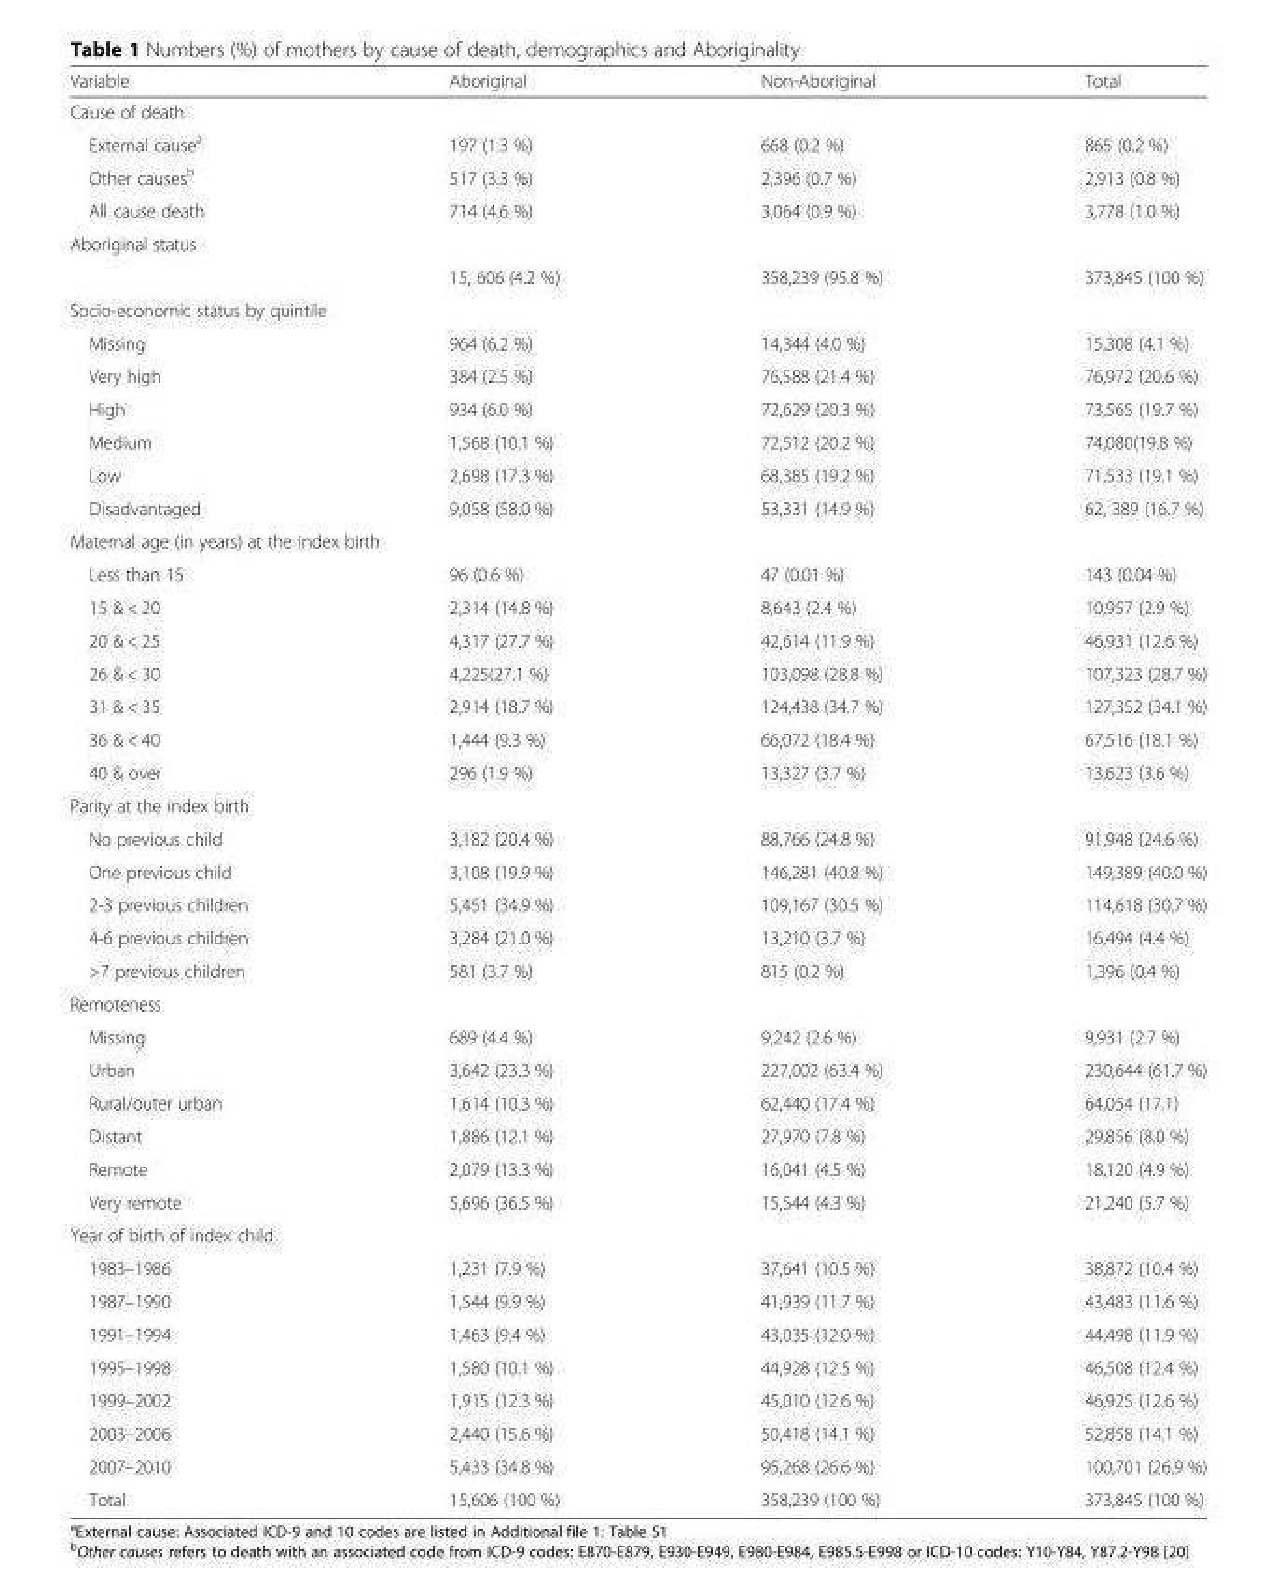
<table><thead><tr><td>Variable</td><td>Aboriginal</td><td>Non-Aboriginal</td><td>Total</td></tr></thead><tbody><tr><td colspan="4">Cause of death</td></tr><tr><td>External cause<sup>a</sup></td><td>197 (1.3 %)</td><td>668 (0.2 %)</td><td>865 (0.2 %)</td></tr><tr><td>Other causes<sup>b</sup></td><td>517 (3.3 %)</td><td>2,396 (0.7 %)</td><td>2,913 (0.8 %)</td></tr><tr><td>All cause death</td><td>714 (4.6 %)</td><td>3,064 (0.9 %)</td><td>3,778 (1.0 %)</td></tr><tr><td colspan="4">Aboriginal status</td></tr><tr><td></td><td>15, 606 (4.2 %)</td><td>358,239 (95.8 %)</td><td>373,845 (100 %)</td></tr><tr><td colspan="4">Socio-economic status by quintile</td></tr><tr><td>Missing</td><td>964 (6.2 %)</td><td>14,344 (4.0 %)</td><td>15,308 (4.1 %)</td></tr><tr><td>Very high</td><td>384 (2.5 %)</td><td>76,588 (21.4 %)</td><td>76,972 (20.6 %)</td></tr><tr><td>High</td><td>934 (6.0 %)</td><td>72,629 (20.3 %)</td><td>73,565 (19.7 %)</td></tr><tr><td>Medium</td><td>1,568 (10.1 %)</td><td>72,512 (20.2 %)</td><td>74,080(19.8 %)</td></tr><tr><td>Low</td><td>2,698 (17.3 %)</td><td>68,385 (19.2 %)</td><td>71,533 (19.1 %)</td></tr><tr><td>Disadvantaged</td><td>9,058 (58.0 %)</td><td>53,331 (14.9 %)</td><td>62, 389 (16.7 %)</td></tr><tr><td colspan="4">Maternal age (in years) at the index birth</td></tr><tr><td>Less than 15</td><td>96 (0.6 %)</td><td>47 (0.01 %)</td><td>143 (0.04 %)</td></tr><tr><td>15 &amp; &lt; 20</td><td>2,314 (14.8 %)</td><td>8,643 (2.4 %)</td><td>10,957 (2.9 %)</td></tr><tr><td>20 &amp; &lt; 25</td><td>4,317 (27.7 %)</td><td>42,614 (11.9 %)</td><td>46,931 (12.6 %)</td></tr><tr><td>26 &amp; &lt; 30</td><td>4,225(27.1 %)</td><td>103,098 (28.8 %)</td><td>107,323 (28.7 %)</td></tr><tr><td>31 &amp; &lt; 35</td><td>2,914 (18.7 %)</td><td>124,438 (34.7 %)</td><td>127,352 (34.1 %)</td></tr><tr><td>36 &amp; &lt; 40</td><td>1,444 (9.3 %)</td><td>66,072 (18.4 %)</td><td>67,516 (18.1 %)</td></tr><tr><td>40 &amp; over</td><td>296 (1.9 %)</td><td>13,327 (3.7 %)</td><td>13,623 (3.6 %)</td></tr><tr><td colspan="4">Parity at the index birth</td></tr><tr><td>No previous child</td><td>3,182 (20.4 %)</td><td>88,766 (24.8 %)</td><td>91,948 (24.6 %)</td></tr><tr><td>One previous child</td><td>3,108 (19.9 %)</td><td>146,281 (40.8 %)</td><td>149,389 (40.0 %)</td></tr><tr><td>2-3 previous children</td><td>5,451 (34.9 %)</td><td>109,167 (30.5 %)</td><td>114,618 (30.7 %)</td></tr><tr><td>4-6 previous children</td><td>3,284 (21.0 %)</td><td>13,210 (3.7 %)</td><td>16,494 (4.4 %)</td></tr><tr><td>&gt;7 previous children</td><td>581 (3.7 %)</td><td>815 (0.2 %)</td><td>1,396 (0.4 %)</td></tr><tr><td colspan="4">Remoteness</td></tr><tr><td>Missing</td><td>689 (4.4 %)</td><td>9,242 (2.6 %)</td><td>9,931 (2.7 %)</td></tr><tr><td>Urban</td><td>3,642 (23.3 %)</td><td>227,002 (63.4 %)</td><td>230,644 (61.7 %)</td></tr><tr><td>Rural/outer urban</td><td>1,614 (10.3 %)</td><td>62,440 (17.4 %)</td><td>64,054 (17.1)</td></tr><tr><td>Distant</td><td>1,886 (12.1 %)</td><td>27,970 (7.8 %)</td><td>29,856 (8.0 %)</td></tr><tr><td>Remote</td><td>2,079 (13.3 %)</td><td>16,041 (4.5 %)</td><td>18,120 (4.9 %)</td></tr><tr><td>Very remote</td><td>5,696 (36.5 %)</td><td>15,544 (4.3 %)</td><td>21,240 (5.7 %)</td></tr><tr><td colspan="4">Year of birth of index child</td></tr><tr><td>1983–1986</td><td>1,231 (7.9 %)</td><td>37,641 (10.5 %)</td><td>38,872 (10.4 %)</td></tr><tr><td>1987–1990</td><td>1,544 (9.9 %)</td><td>41,939 (11.7 %)</td><td>43,483 (11.6 %)</td></tr><tr><td>1991–1994</td><td>1,463 (9.4 %)</td><td>43,035 (12.0 %)</td><td>44,498 (11.9 %)</td></tr><tr><td>1995–1998</td><td>1,580 (10.1 %)</td><td>44,928 (12.5 %)</td><td>46,508 (12.4 %)</td></tr><tr><td>1999–2002</td><td>1,915 (12.3 %)</td><td>45,010 (12.6 %)</td><td>46,925 (12.6 %)</td></tr><tr><td>2003–2006</td><td>2,440 (15.6 %)</td><td>50,418 (14.1 %)</td><td>52,858 (14.1 %)</td></tr><tr><td>2007–2010</td><td>5,433 (34.8 %)</td><td>95,268 (26.6 %)</td><td>100,701 (26.9 %)</td></tr><tr><td>Total</td><td>15,606 (100 %)</td><td>358,239 (100 %)</td><td>373,845 (100 %)</td></tr></tbody></table>